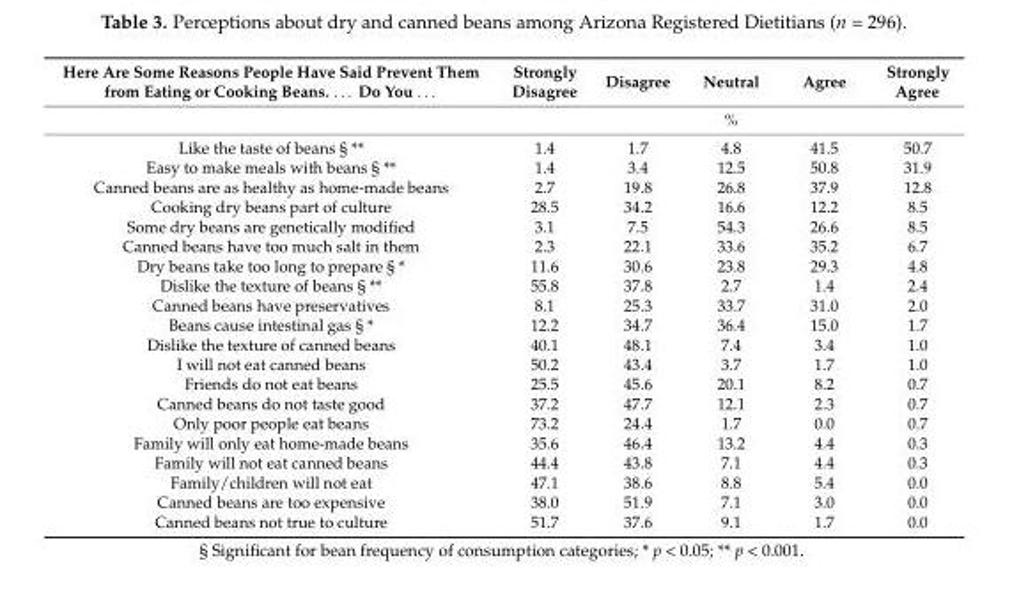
<table><thead><tr><td>Here Are Some Reasons People Have Said Prevent Them from Eating or Cooking Beans. . . . Do You . . .</td><td>Strongly Disagree</td><td>Disagree</td><td>Neutral</td><td>Agree</td><td>Strongly Agree</td></tr></thead><tbody><tr><td></td><td colspan="5">%</td></tr><tr><td>Like the taste of beans § **</td><td>1.4</td><td>1.7</td><td>4.8</td><td>41.5</td><td>50.7</td></tr><tr><td>Easy to make meals with beans § **</td><td>1.4</td><td>3.4</td><td>12.5</td><td>50.8</td><td>31.9</td></tr><tr><td>Canned beans are as healthy as home-made beans</td><td>2.7</td><td>19.8</td><td>26.8</td><td>37.9</td><td>12.8</td></tr><tr><td>Cooking dry beans part of culture</td><td>28.5</td><td>34.2</td><td>16.6</td><td>12.2</td><td>8.5</td></tr><tr><td>Some dry beans are genetically modified</td><td>3.1</td><td>7.5</td><td>54.3</td><td>26.6</td><td>8.5</td></tr><tr><td>Canned beans have too much salt in them</td><td>2.3</td><td>22.1</td><td>33.6</td><td>35.2</td><td>6.7</td></tr><tr><td>Dry beans take too long to prepare § *</td><td>11.6</td><td>30.6</td><td>23.8</td><td>29.3</td><td>4.8</td></tr><tr><td>Dislike the texture of beans § **</td><td>55.8</td><td>37.8</td><td>2.7</td><td>1.4</td><td>2.4</td></tr><tr><td>Canned beans have preservatives</td><td>8.1</td><td>25.3</td><td>33.7</td><td>31.0</td><td>2.0</td></tr><tr><td>Beans cause intestinal gas § *</td><td>12.2</td><td>34.7</td><td>36.4</td><td>15.0</td><td>1.7</td></tr><tr><td>Dislike the texture of canned beans</td><td>40.1</td><td>48.1</td><td>7.4</td><td>3.4</td><td>1.0</td></tr><tr><td>I will not eat canned beans</td><td>50.2</td><td>43.4</td><td>3.7</td><td>1.7</td><td>1.0</td></tr><tr><td>Friends do not eat beans</td><td>25.5</td><td>45.6</td><td>20.1</td><td>8.2</td><td>0.7</td></tr><tr><td>Canned beans do not taste good</td><td>37.2</td><td>47.7</td><td>12.1</td><td>2.3</td><td>0.7</td></tr><tr><td>Only poor people eat beans</td><td>73.2</td><td>24.4</td><td>1.7</td><td>0.0</td><td>0.7</td></tr><tr><td>Family will only eat home-made beans</td><td>35.6</td><td>46.4</td><td>13.2</td><td>4.4</td><td>0.3</td></tr><tr><td>Family will not eat canned beans</td><td>44.4</td><td>43.8</td><td>7.1</td><td>4.4</td><td>0.3</td></tr><tr><td>Family/children will not eat</td><td>47.1</td><td>38.6</td><td>8.8</td><td>5.4</td><td>0.0</td></tr><tr><td>Canned beans are too expensive</td><td>38.0</td><td>51.9</td><td>7.1</td><td>3.0</td><td>0.0</td></tr><tr><td>Canned beans not true to culture</td><td>51.7</td><td>37.6</td><td>9.1</td><td>1.7</td><td>0.0</td></tr></tbody></table>